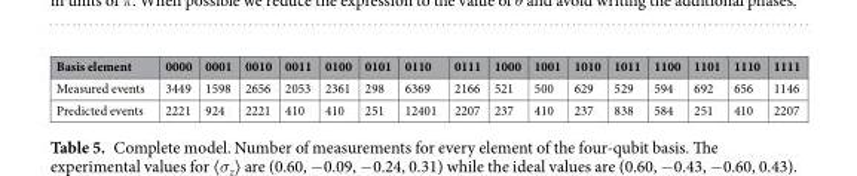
<table><thead><tr><td>Basis element</td><td>0000</td><td>0001</td><td>0010</td><td>0011</td><td>0100</td><td>0101</td><td>0110</td><td>0111</td><td>1000</td><td>1001</td><td>1010</td><td>1011</td><td>1100</td><td>1101</td><td>1110</td><td>1111</td></tr></thead><tbody><tr><td>Measured events</td><td>3449</td><td>1598</td><td>2656</td><td>2053</td><td>2361</td><td>298</td><td>6369</td><td>2166</td><td>521</td><td>500</td><td>629</td><td>529</td><td>594</td><td>692</td><td>656</td><td>1146</td></tr><tr><td>Predicted events</td><td>2221</td><td>924</td><td>2221</td><td>410</td><td>410</td><td>251</td><td>12401</td><td>2207</td><td>237</td><td>410</td><td>237</td><td>838</td><td>584</td><td>251</td><td>410</td><td>2207</td></tr></tbody></table>